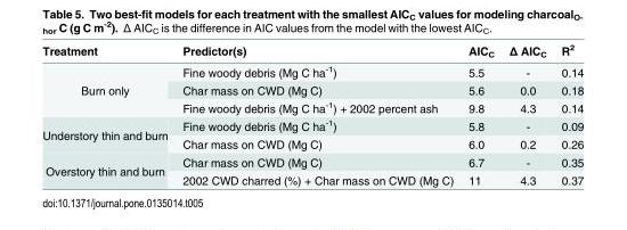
<table><thead><tr><td>Treatment</td><td>Predictor(s)</td><td>AIC<sub>C</sub></td><td>Δ AIC<sub>C</sub></td><td>R<sup>2</sup></td></tr></thead><tbody><tr><td rowspan="3">Burn only</td><td>Fine woody debris (Mg C ha<sup>-1</sup>)</td><td>5.5</td><td>-</td><td>0.14</td></tr><tr><td>Char mass on CWD (Mg C)</td><td>5.6</td><td>0.0</td><td>0.18</td></tr><tr><td>Fine woody debris (Mg C ha<sup>-1</sup>) + 2002 percent ash</td><td>9.8</td><td>4.3</td><td>0.14</td></tr><tr><td rowspan="2">Understory thin and burn</td><td>Fine woody debris (Mg C ha<sup>-1</sup>)</td><td>5.8</td><td>-</td><td>0.09</td></tr><tr><td>Char mass on CWD (Mg C)</td><td>6.0</td><td>0.2</td><td>0.26</td></tr><tr><td rowspan="2">Overstory thin and burn</td><td>Char mass on CWD (Mg C)</td><td>6.7</td><td>-</td><td>0.35</td></tr><tr><td>2002 CWD charred (%) + Char mass on CWD (Mg C)</td><td>11</td><td>4.3</td><td>0.37</td></tr></tbody></table>